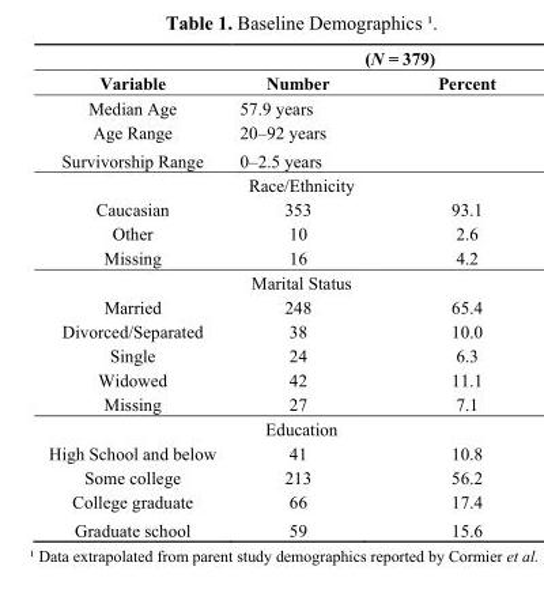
<table><thead><tr><td rowspan="2">Variable</td><td colspan="2">(N = 379)</td></tr><tr><td>Number</td><td>Percent</td></tr></thead><tbody><tr><td>Median Age</td><td colspan="2">57.9 years</td></tr><tr><td>Age Range</td><td colspan="2">20–92 years</td></tr><tr><td>Survivorship Range</td><td colspan="2">0–2.5 years</td></tr><tr><td colspan="3">Race/Ethnicity</td></tr><tr><td>Caucasian</td><td>353</td><td>93.1</td></tr><tr><td>Other</td><td>10</td><td>2.6</td></tr><tr><td>Missing</td><td>16</td><td>4.2</td></tr><tr><td colspan="3">Marital Status</td></tr><tr><td>Married</td><td>248</td><td>65.4</td></tr><tr><td>Divorced/Separated</td><td>38</td><td>10.0</td></tr><tr><td>Single</td><td>24</td><td>6.3</td></tr><tr><td>Widowed</td><td>42</td><td>11.1</td></tr><tr><td>Missing</td><td>27</td><td>7.1</td></tr><tr><td colspan="3">Education</td></tr><tr><td>High School and below</td><td>41</td><td>10.8</td></tr><tr><td>Some college</td><td>213</td><td>56.2</td></tr><tr><td>College graduate</td><td>66</td><td>17.4</td></tr><tr><td>Graduate school</td><td>59</td><td>15.6</td></tr></tbody></table>